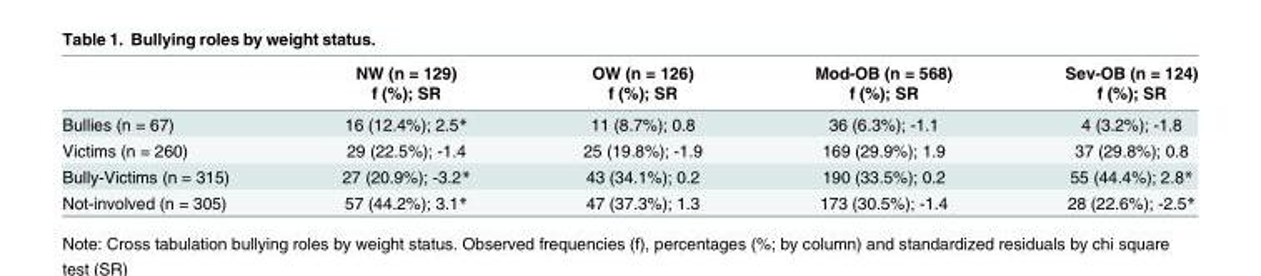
<table><thead><tr><td rowspan="2"></td><td rowspan="2">NW (n = 129) f (%); SR</td><td rowspan="2">OW (n = 126) f (%); SR</td><td rowspan="2">Mod-OB (n = 568) f (%); SR</td><td rowspan="2">Sev-OB (n = 124) f (%); SR</td></tr><tr></tr></thead><tbody><tr><td>Bullies (n = 67)</td><td>16 (12.4%); 2.5*</td><td>11 (8.7%); 0.8</td><td>36 (6.3%); -1.1</td><td>4 (3.2%); -1.8</td></tr><tr><td>Victims (n = 260)</td><td>29 (22.5%); -1.4</td><td>25 (19.8%); -1.9</td><td>169 (29.9%); 1.9</td><td>37 (29.8%); 0.8</td></tr><tr><td>Bully-Victims (n = 315)</td><td>27 (20.9%); -3.2*</td><td>43 (34.1%); 0.2</td><td>190 (33.5%); 0.2</td><td>55 (44.4%); 2.8*</td></tr><tr><td>Not-involved (n = 305)</td><td>57 (44.2%); 3.1*</td><td>47 (37.3%); 1.3</td><td>173 (30.5%); -1.4</td><td>28 (22.6%); -2.5*</td></tr></tbody></table>